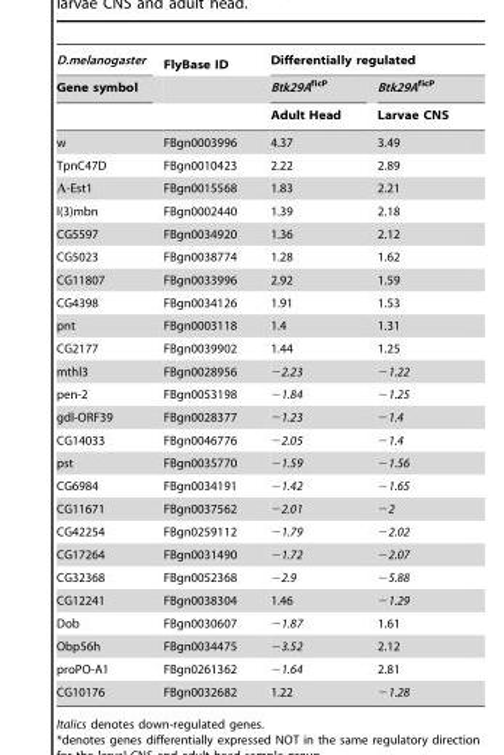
<table><thead><tr><td rowspan="3">D.melanogaster Gene symbol</td><td rowspan="3">FlyBase ID</td><td colspan="2">Differentially regulated</td></tr><tr><td rowspan="2">Btk29A<sup>ficP</sup> Adult Head</td><td rowspan="2">Btk29A<sup>ficP</sup> Larvae CNS</td></tr><tr></tr></thead><tbody><tr><td>w</td><td>FBgn0003996</td><td>4.37</td><td>3.49</td></tr><tr><td>TpnC47D</td><td>FBgn0010423</td><td>2.22</td><td>2.89</td></tr><tr><td>A-Est1</td><td>FBgn0015568</td><td>1.83</td><td>2.21</td></tr><tr><td>l(3)mbn</td><td>FBgn0002440</td><td>1.39</td><td>2.18</td></tr><tr><td>CG5597</td><td>FBgn0034920</td><td>1.36</td><td>2.12</td></tr><tr><td>CG5023</td><td>FBgn0038774</td><td>1.28</td><td>1.62</td></tr><tr><td>CG11807</td><td>FBgn0033996</td><td>2.92</td><td>1.59</td></tr><tr><td>CG4398</td><td>FBgn0034126</td><td>1.91</td><td>1.53</td></tr><tr><td>pnt</td><td>FBgn0003118</td><td>1.4</td><td>1.31</td></tr><tr><td>CG2177</td><td>FBgn0039902</td><td>1.44</td><td>1.25</td></tr><tr><td>mthl3</td><td>FBgn0028956</td><td>−2.23</td><td>−1.22</td></tr><tr><td>pen-2</td><td>FBgn0053198</td><td>−1.84</td><td>−1.25</td></tr><tr><td>gdl-ORF39</td><td>FBgn0028377</td><td>−1.23</td><td>−1.4</td></tr><tr><td>CG14033</td><td>FBgn0046776</td><td>−2.05</td><td>−1.4</td></tr><tr><td>pst</td><td>FBgn0035770</td><td>−1.59</td><td>−1.56</td></tr><tr><td>CG6984</td><td>FBgn0034191</td><td>−1.42</td><td>−1.65</td></tr><tr><td>CG11671</td><td>FBgn0037562</td><td>−2.01</td><td>−2</td></tr><tr><td>CG42254</td><td>FBgn0259112</td><td>−1.79</td><td>−2.02</td></tr><tr><td>CG17264</td><td>FBgn0031490</td><td>−1.72</td><td>−2.07</td></tr><tr><td>CG32368</td><td>FBgn0052368</td><td>−2.9</td><td>−5.88</td></tr><tr><td>CG12241</td><td>FBgn0038304</td><td>1.46</td><td>−1.29</td></tr><tr><td>Dob</td><td>FBgn0030607</td><td>−1.87</td><td>1.61</td></tr><tr><td>Obp56h</td><td>FBgn0034475</td><td>−3.52</td><td>2.12</td></tr><tr><td>proPO-A1</td><td>FBgn0261362</td><td>−1.64</td><td>2.81</td></tr><tr><td>CG10176</td><td>FBgn0032682</td><td>1.22</td><td>−1.28</td></tr></tbody></table>